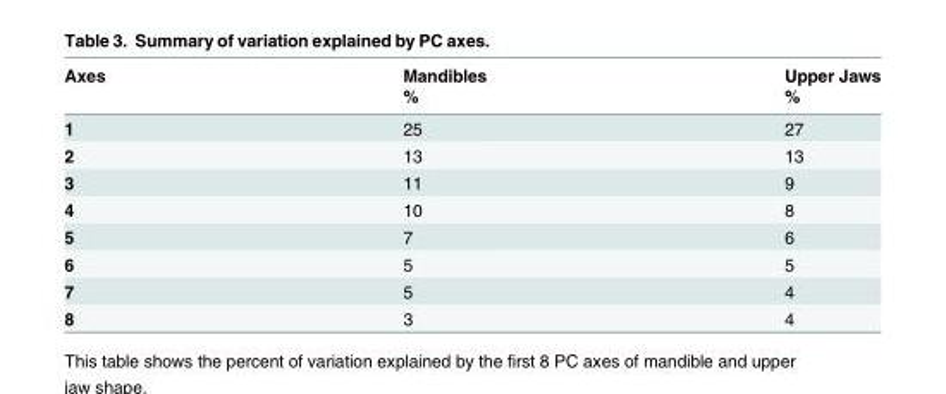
<table><thead><tr><td rowspan="2">Axes</td><td rowspan="2">Mandibles %</td><td rowspan="2">Upper Jaws %</td></tr><tr></tr></thead><tbody><tr><td>1</td><td>25</td><td>27</td></tr><tr><td>2</td><td>13</td><td>13</td></tr><tr><td>3</td><td>11</td><td>9</td></tr><tr><td>4</td><td>10</td><td>8</td></tr><tr><td>5</td><td>7</td><td>6</td></tr><tr><td>6</td><td>5</td><td>5</td></tr><tr><td>7</td><td>5</td><td>4</td></tr><tr><td>8</td><td>3</td><td>4</td></tr></tbody></table>